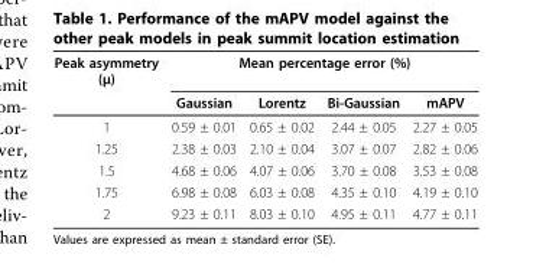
<table><thead><tr><td rowspan="2">Peak asymmetry (μ)</td><td colspan="4">Mean percentage error (%)</td></tr><tr><td>Gaussian</td><td>Lorentz</td><td>Bi-Gaussian</td><td>mAPV</td></tr></thead><tbody><tr><td>1</td><td>0.59 ± 0.01</td><td>0.65 ± 0.02</td><td>2.44 ± 0.05</td><td>2.27 ± 0.05</td></tr><tr><td>1.25</td><td>2.38 ± 0.03</td><td>2.10 ± 0.04</td><td>3.07 ± 0.07</td><td>2.82 ± 0.06</td></tr><tr><td>1.5</td><td>4.68 ± 0.06</td><td>4.07 ± 0.06</td><td>3.70 ± 0.08</td><td>3.53 ± 0.08</td></tr><tr><td>1.75</td><td>6.98 ± 0.08</td><td>6.03 ± 0.08</td><td>4.35 ± 0.10</td><td>4.19 ± 0.10</td></tr><tr><td>2</td><td>9.23 ± 0.11</td><td>8.03 ± 0.10</td><td>4.95 ± 0.11</td><td>4.77 ± 0.11</td></tr></tbody></table>